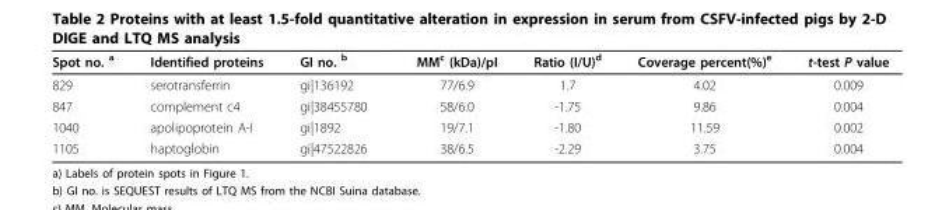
<table><thead><tr><td>Spot no. <sup>a</sup></td><td>Identified proteins</td><td>GI no. <sup>b</sup></td><td>MM<sup>c</sup> (kDa)/pI</td><td>Ratio (I/U)<sup>d</sup></td><td>Coverage percent(%)<sup>e</sup></td><td>t-test P value</td></tr></thead><tbody><tr><td>829</td><td>serotransferrin</td><td>gi|136192</td><td>77/6.9</td><td>1.7</td><td>4.02</td><td>0.009</td></tr><tr><td>847</td><td>complement c4</td><td>gi|38455780</td><td>58/6.0</td><td>-1.75</td><td>9.86</td><td>0.004</td></tr><tr><td>1040</td><td>apolipoprotein A-I</td><td>gi|1892</td><td>19/7.1</td><td>-1.80</td><td>11.59</td><td>0.002</td></tr><tr><td>1105</td><td>haptoglobin</td><td>gi|47522826</td><td>38/6.5</td><td>-2.29</td><td>3.75</td><td>0.004</td></tr></tbody></table>